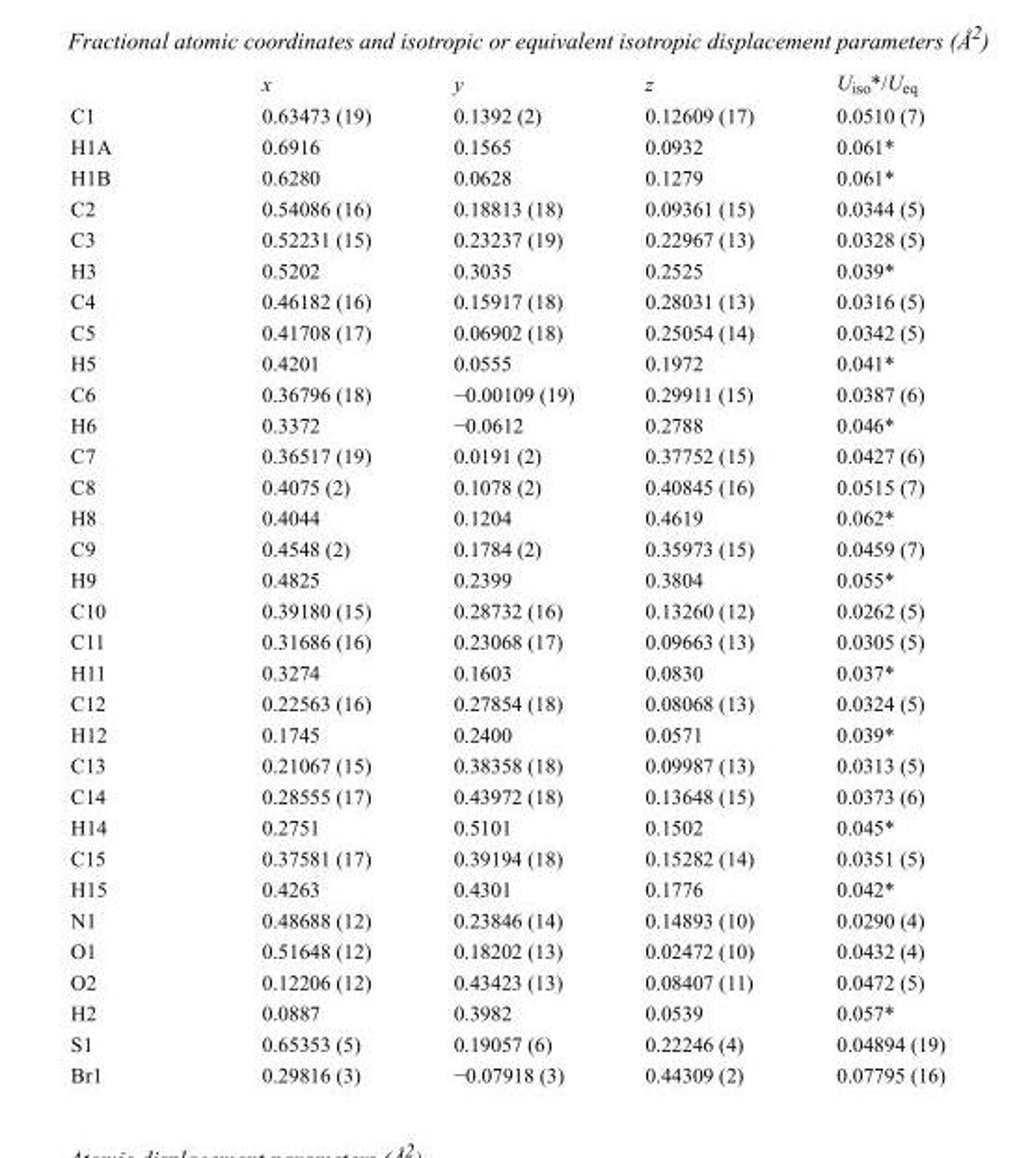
<table><thead><tr><td></td><td>x</td><td>y</td><td>z</td><td>U<sub>iso</sub>*/U<sub>eq</sub></td></tr></thead><tbody><tr><td>C1</td><td>0.63473 (19)</td><td>0.1392 (2)</td><td>0.12609 (17)</td><td>0.0510 (7)</td></tr><tr><td>H1A</td><td>0.6916</td><td>0.1565</td><td>0.0932</td><td>0.061*</td></tr><tr><td>H1B</td><td>0.6280</td><td>0.0628</td><td>0.1279</td><td>0.061*</td></tr><tr><td>C2</td><td>0.54086 (16)</td><td>0.18813 (18)</td><td>0.09361 (15)</td><td>0.0344 (5)</td></tr><tr><td>C3</td><td>0.52231 (15)</td><td>0.23237 (19)</td><td>0.22967 (13)</td><td>0.0328 (5)</td></tr><tr><td>H3</td><td>0.5202</td><td>0.3035</td><td>0.2525</td><td>0.039*</td></tr><tr><td>C4</td><td>0.46182 (16)</td><td>0.15917 (18)</td><td>0.28031 (13)</td><td>0.0316 (5)</td></tr><tr><td>C5</td><td>0.41708 (17)</td><td>0.06902 (18)</td><td>0.25054 (14)</td><td>0.0342 (5)</td></tr><tr><td>H5</td><td>0.4201</td><td>0.0555</td><td>0.1972</td><td>0.041*</td></tr><tr><td>C6</td><td>0.36796 (18)</td><td>−0.00109 (19)</td><td>0.29911 (15)</td><td>0.0387 (6)</td></tr><tr><td>H6</td><td>0.3372</td><td>−0.0612</td><td>0.2788</td><td>0.046*</td></tr><tr><td>C7</td><td>0.36517 (19)</td><td>0.0191 (2)</td><td>0.37752 (15)</td><td>0.0427 (6)</td></tr><tr><td>C8</td><td>0.4075 (2)</td><td>0.1078 (2)</td><td>0.40845 (16)</td><td>0.0515 (7)</td></tr><tr><td>H8</td><td>0.4044</td><td>0.1204</td><td>0.4619</td><td>0.062*</td></tr><tr><td>C9</td><td>0.4548 (2)</td><td>0.1784 (2)</td><td>0.35973 (15)</td><td>0.0459 (7)</td></tr><tr><td>H9</td><td>0.4825</td><td>0.2399</td><td>0.3804</td><td>0.055*</td></tr><tr><td>C10</td><td>0.39180 (15)</td><td>0.28732 (16)</td><td>0.13260 (12)</td><td>0.0262 (5)</td></tr><tr><td>C11</td><td>0.31686 (16)</td><td>0.23068 (17)</td><td>0.09663 (13)</td><td>0.0305 (5)</td></tr><tr><td>H11</td><td>0.3274</td><td>0.1603</td><td>0.0830</td><td>0.037*</td></tr><tr><td>C12</td><td>0.22563 (16)</td><td>0.27854 (18)</td><td>0.08068 (13)</td><td>0.0324 (5)</td></tr><tr><td>H12</td><td>0.1745</td><td>0.2400</td><td>0.0571</td><td>0.039*</td></tr><tr><td>C13</td><td>0.21067 (15)</td><td>0.38358 (18)</td><td>0.09987 (13)</td><td>0.0313 (5)</td></tr><tr><td>C14</td><td>0.28555 (17)</td><td>0.43972 (18)</td><td>0.13648 (15)</td><td>0.0373 (6)</td></tr><tr><td>H14</td><td>0.2751</td><td>0.5101</td><td>0.1502</td><td>0.045*</td></tr><tr><td>C15</td><td>0.37581 (17)</td><td>0.39194 (18)</td><td>0.15282 (14)</td><td>0.0351 (5)</td></tr><tr><td>H15</td><td>0.4263</td><td>0.4301</td><td>0.1776</td><td>0.042*</td></tr><tr><td>N1</td><td>0.48688 (12)</td><td>0.23846 (14)</td><td>0.14893 (10)</td><td>0.0290 (4)</td></tr><tr><td>O1</td><td>0.51648 (12)</td><td>0.18202 (13)</td><td>0.02472 (10)</td><td>0.0432 (4)</td></tr><tr><td>O2</td><td>0.12206 (12)</td><td>0.43423 (13)</td><td>0.08407 (11)</td><td>0.0472 (5)</td></tr><tr><td>H2</td><td>0.0887</td><td>0.3982</td><td>0.0539</td><td>0.057*</td></tr><tr><td>S1</td><td>0.65353 (5)</td><td>0.19057 (6)</td><td>0.22246 (4)</td><td>0.04894 (19)</td></tr><tr><td>Br1</td><td>0.29816 (3)</td><td>−0.07918 (3)</td><td>0.44309 (2)</td><td>0.07795 (16)</td></tr></tbody></table>